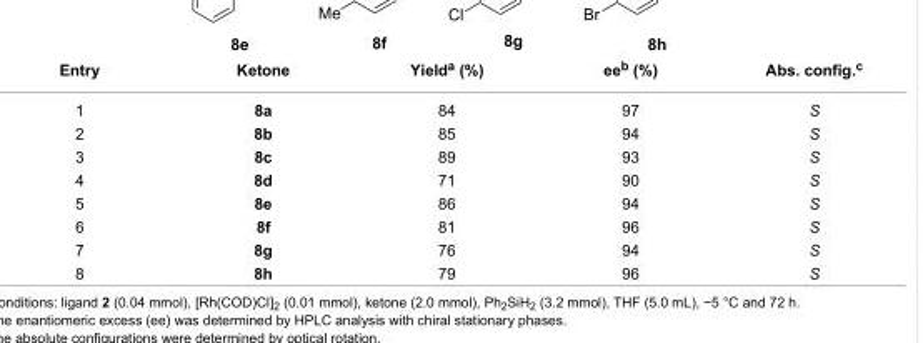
<table><tbody><tr><td>Entry</td><td>Ketone</td><td>Yield<sup>a</sup> (%)</td><td>ee<sup>b</sup> (%)</td><td>Abs. config.<sup>c</sup></td></tr><tr><td>1</td><td>8a</td><td>84</td><td>97</td><td>S</td></tr><tr><td>2</td><td>8b</td><td>85</td><td>94</td><td>S</td></tr><tr><td>3</td><td>8c</td><td>89</td><td>93</td><td>S</td></tr><tr><td>4</td><td>8d</td><td>71</td><td>90</td><td>S</td></tr><tr><td>5</td><td>8e</td><td>86</td><td>94</td><td>S</td></tr><tr><td>6</td><td>8f</td><td>81</td><td>96</td><td>S</td></tr><tr><td>7</td><td>8g</td><td>76</td><td>94</td><td>S</td></tr><tr><td>8</td><td>8h</td><td>79</td><td>96</td><td>S</td></tr></tbody></table>